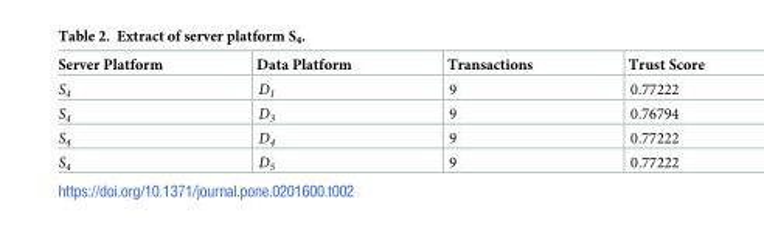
<table><thead><tr><td>Server Platform</td><td>Data Platform</td><td>Transactions</td><td>Trust Score</td></tr></thead><tbody><tr><td>S<sub>4</sub></td><td>D<sub>1</sub></td><td>9</td><td>0.77222</td></tr><tr><td>S<sub>4</sub></td><td>D<sub>3</sub></td><td>9</td><td>0.76794</td></tr><tr><td>S<sub>4</sub></td><td>D<sub>4</sub></td><td>9</td><td>0.77222</td></tr><tr><td>S<sub>4</sub></td><td>D<sub>5</sub></td><td>9</td><td>0.77222</td></tr></tbody></table>